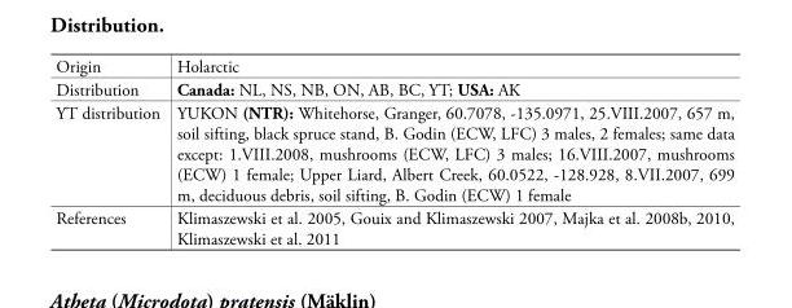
<table><tbody><tr><td>Origin</td><td>Holarctic</td></tr><tr><td>Distribution</td><td>Canada: NL, NS, NB, ON, AB, BC, YT; USA: AK</td></tr><tr><td>YT distribution</td><td>YUKON (NTR): Whitehorse, Granger, 60.7078, -135.0971, 25.VIII.2007, 657 m, soil sifting, black spruce stand, B. Godin (ECW, LFC) 3 males, 2 females; same data except: 1.VIII.2008, mushrooms (ECW, LFC) 3 males; 16.VIII.2007, mushrooms (ECW) 1 female; Upper Liard, Albert Creek, 60.0522, -128.928, 8.VII.2007, 699 m, deciduous debris, soil sifting, B. Godin (ECW) 1 female</td></tr><tr><td>References</td><td>Klimaszewski et al. 2005, Gouix and Klimaszewski 2007, Majka et al. 2008b, 2010, Klimaszewski et al. 2011</td></tr></tbody></table>